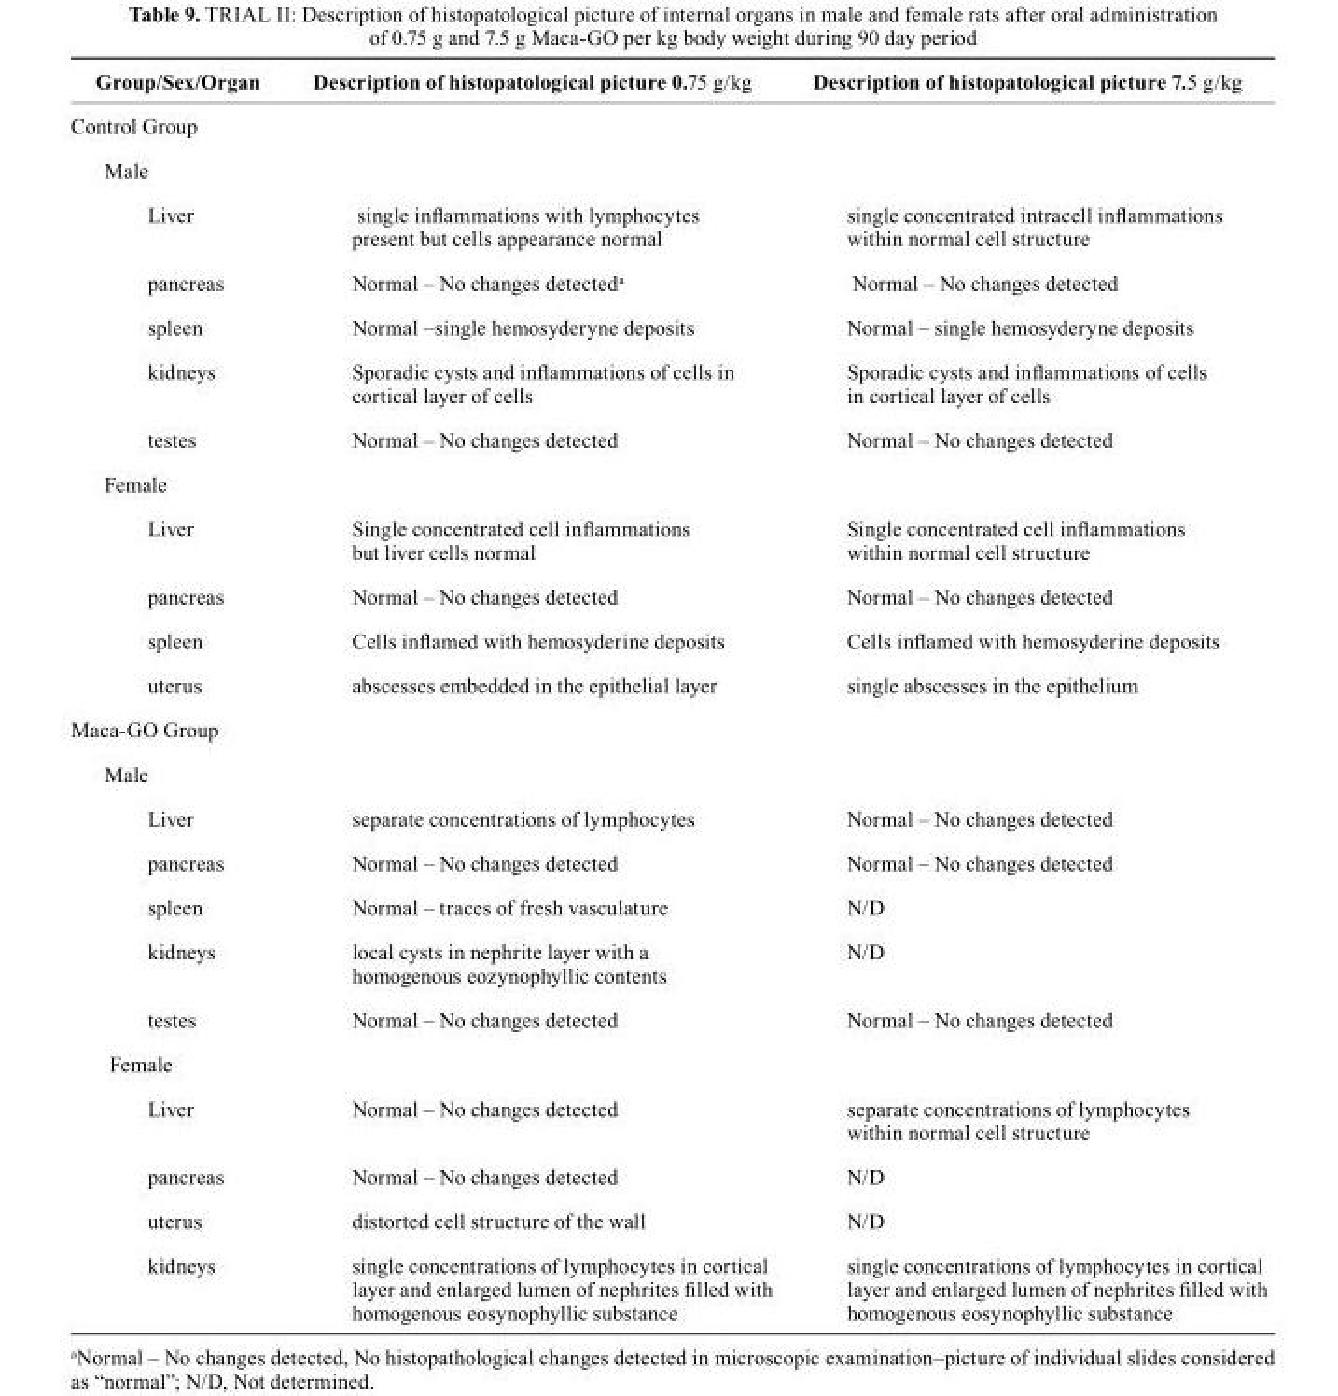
<table><thead><tr><td>Group/sex/Organ</td><td>Description of histopatological picture 0.75 g/kg</td><td>Description of histopatological picture 7.5 g/kg</td></tr></thead><tbody><tr><td colspan="3">Control Group</td></tr><tr><td colspan="3">Male</td></tr><tr><td>Liver</td><td>single inflammations with lymphocytes present but cells appearance normal</td><td>single concentrated intracell inflammations within normal cell structure</td></tr><tr><td>pancreas</td><td>Normal – No changes detected<sup>a</sup></td><td>Normal – No changes detected</td></tr><tr><td>spleen</td><td>Normal –single hemosyderyne deposits</td><td>Normal – single hemosyderyne deposits</td></tr><tr><td>kidneys</td><td>Sporadic cysts and inflammations of cells in cortical layer of cells</td><td>Sporadic cysts and inflammations of cells in cortical layer of cells</td></tr><tr><td>testes</td><td>Normal – No changes detected</td><td>Normal – No changes detected</td></tr><tr><td colspan="3">Female</td></tr><tr><td>Liver</td><td>Single concentrated cell inflammations but liver cells normal</td><td>Single concentrated cell inflammations within normal cell structure</td></tr><tr><td>pancreas</td><td>Normal – No changes detected</td><td>Normal – No changes detected</td></tr><tr><td>spleen</td><td>Cells inflamed with hemosyderine deposits</td><td>Cells inflamed with hemosyderine deposits</td></tr><tr><td>uterus</td><td>abscesses embedded in the epithelial layer</td><td>single abscesses in the epithelium</td></tr><tr><td colspan="3">Maca-GO Group</td></tr><tr><td colspan="3">Male</td></tr><tr><td>Liver</td><td>separate concentrations of lymphocytes</td><td>Normal – No changes detected</td></tr><tr><td>pancreas</td><td>Normal – No changes detected</td><td>Normal – No changes detected</td></tr><tr><td>spleen</td><td>Normal – traces of fresh vasculature</td><td>N/D</td></tr><tr><td>kidneys</td><td>local cysts in nephrite layer with a homogenous eozynophyllic contents</td><td>N/D</td></tr><tr><td>testes</td><td>Normal – No changes detected</td><td>Normal – No changes detected</td></tr><tr><td colspan="3">Female</td></tr><tr><td>Liver</td><td>Normal – No changes detected</td><td>separate concentrations of lymphocytes within normal cell structure</td></tr><tr><td>pancreas</td><td>Normal – No changes detected</td><td>N/D</td></tr><tr><td>uterus</td><td>distorted cell structure of the wall</td><td>N/D</td></tr><tr><td>kidneys</td><td>single concentrations of lymphocytes in cortical layer and enlarged lumen of nephrites filled with homogenous eosynophyllic substance</td><td>single concentrations of lymphocytes in cortical layer and enlarged lumen of nephrites filled with homogenous eosynophyllic substance</td></tr></tbody></table>